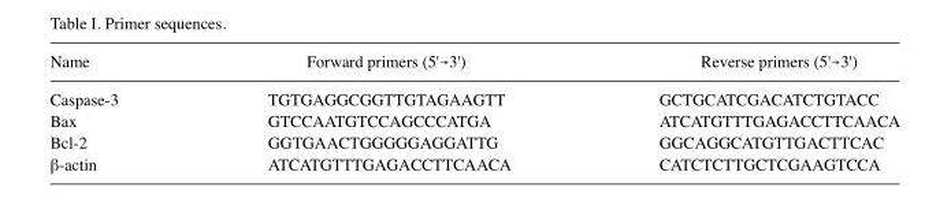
<table><thead><tr><td>Name</td><td>Forward primers (5&#x27;→3&#x27;)</td><td>Reverse primers (5&#x27;→3&#x27;)</td></tr></thead><tbody><tr><td>Caspase-3</td><td>TGTGAGGCGGTTGTAGAAGTT</td><td>GCTGCATCGACATCTGTACC</td></tr><tr><td>Bax</td><td>GTCCAATGTCCAGCCCATGA</td><td>ATCATGTTTGAGACCTTCAACA</td></tr><tr><td>Bcl-2</td><td>GGTGAACTGGGGGAGGATTG</td><td>GGCAGGCATGTTGACTTCAC</td></tr><tr><td>β-actin</td><td>ATCATGTTTGAGACCTTCAACA</td><td>CATCTCTTGCTCGAAGTCCA</td></tr></tbody></table>